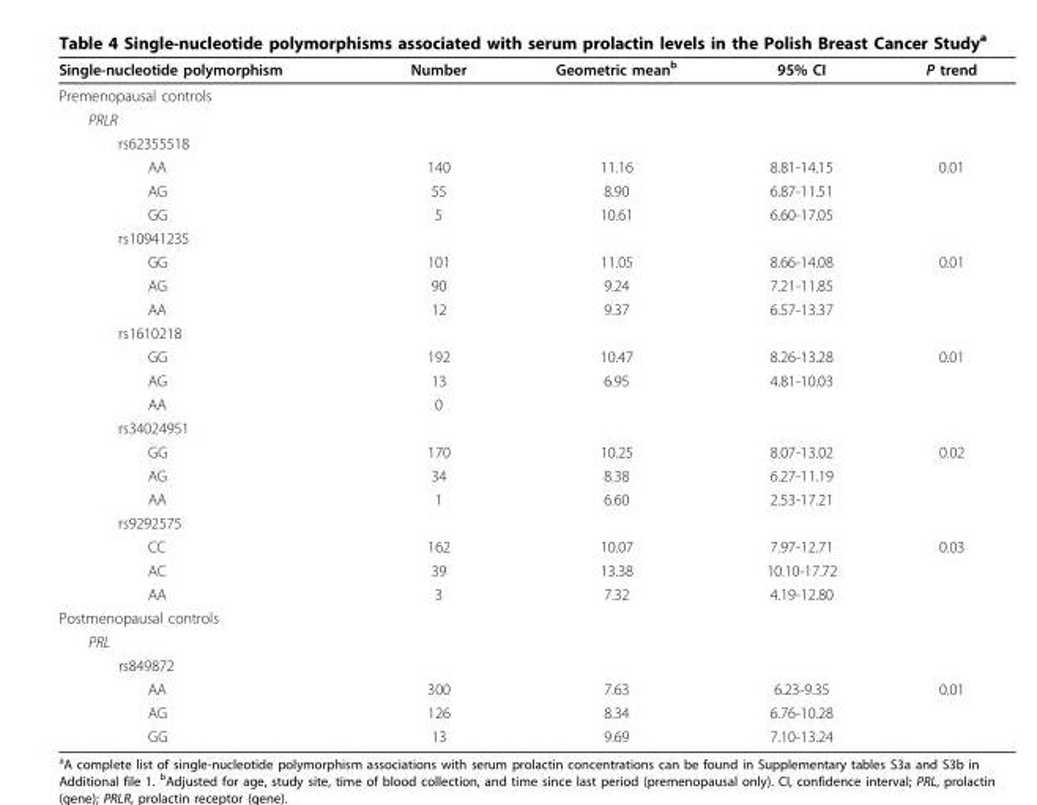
<table><thead><tr><td>Single-nucleotide polymorphism</td><td>Number</td><td>Geometric mean<sup>b</sup></td><td>95% CI</td><td>P trend</td></tr></thead><tbody><tr><td colspan="5">Premenopausal controls</td></tr><tr><td colspan="5">PRLR</td></tr><tr><td colspan="5">rs62355518</td></tr><tr><td>AA</td><td>140</td><td>11.16</td><td>8.81-14.15</td><td>0.01</td></tr><tr><td>AG</td><td>55</td><td>8.90</td><td>6.87-11.51</td><td></td></tr><tr><td>GG</td><td>5</td><td>10.61</td><td>6.60-17.05</td><td></td></tr><tr><td colspan="5">rs10941235</td></tr><tr><td>GG</td><td>101</td><td>11.05</td><td>8.66-14.08</td><td>0.01</td></tr><tr><td>AG</td><td>90</td><td>9.24</td><td>7.21-11.85</td><td></td></tr><tr><td>AA</td><td>12</td><td>9.37</td><td>6.57-13.37</td><td></td></tr><tr><td colspan="5">rs1610218</td></tr><tr><td>GG</td><td>192</td><td>10.47</td><td>8.26-13.28</td><td>0.01</td></tr><tr><td>AG</td><td>13</td><td>6.95</td><td>4.81-10.03</td><td></td></tr><tr><td>AA</td><td>0</td><td></td><td></td><td></td></tr><tr><td colspan="5">rs34024951</td></tr><tr><td>GG</td><td>170</td><td>10.25</td><td>8.07-13.02</td><td>0.02</td></tr><tr><td>AG</td><td>34</td><td>8.38</td><td>6.27-11.19</td><td></td></tr><tr><td>AA</td><td>1</td><td>6.60</td><td>2.53-17.21</td><td></td></tr><tr><td colspan="5">rs9292575</td></tr><tr><td>CC</td><td>162</td><td>10.07</td><td>7.97-12.71</td><td>0.03</td></tr><tr><td>AC</td><td>39</td><td>13.38</td><td>10.10-17.72</td><td></td></tr><tr><td>AA</td><td>3</td><td>7.32</td><td>4.19-12.80</td><td></td></tr><tr><td colspan="5">Postmenopausal controls</td></tr><tr><td colspan="5">PRL</td></tr><tr><td colspan="5">rs849872</td></tr><tr><td>AA</td><td>300</td><td>7.63</td><td>6.23-9.35</td><td>0.01</td></tr><tr><td>AG</td><td>126</td><td>8.34</td><td>6.76-10.28</td><td></td></tr><tr><td>GG</td><td>13</td><td>9.69</td><td>7.10-13.24</td><td></td></tr></tbody></table>